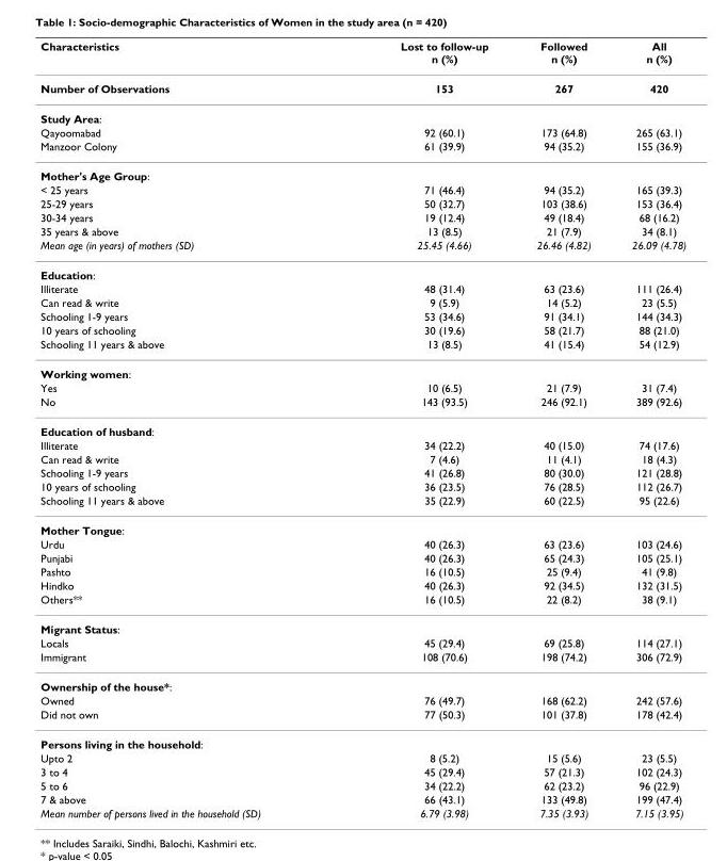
<table><thead><tr><td>Characteristics</td><td>Lost to follow-up n (%)</td><td>Followed n (%)</td><td>All n (%)</td></tr></thead><tbody><tr><td>Number of Observations</td><td>153</td><td>267</td><td>420</td></tr><tr><td colspan="4">Study Area:</td></tr><tr><td>Qayoomabad</td><td>92 (60.1)</td><td>173 (64.8)</td><td>265 (63.1)</td></tr><tr><td>Manzoor Colony</td><td>61 (39.9)</td><td>94 (35.2)</td><td>155 (36.9)</td></tr><tr><td colspan="4">Mother&#x27;s Age Group:</td></tr><tr><td>&lt; 25 years</td><td>71 (46.4)</td><td>94 (35.2)</td><td>165 (39.3)</td></tr><tr><td>25-29 years</td><td>50 (32.7)</td><td>103 (38.6)</td><td>153 (36.4)</td></tr><tr><td>30-34 years</td><td>19 (12.4)</td><td>49 (18.4)</td><td>68 (16.2)</td></tr><tr><td>35 years &amp; above</td><td>13 (8.5)</td><td>21 (7.9)</td><td>34 (8.1)</td></tr><tr><td>Mean age (in years) of mothers (SD)</td><td>25.45 (4.66)</td><td>26.46 (4.82)</td><td>26.09 (4.78)</td></tr><tr><td colspan="4">Education:</td></tr><tr><td>Illiterate</td><td>48 (31.4)</td><td>63 (23.6)</td><td>111 (26.4)</td></tr><tr><td>Can read &amp; write</td><td>9 (5.9)</td><td>14 (5.2)</td><td>23 (5.5)</td></tr><tr><td>Schooling 1-9 years</td><td>53 (34.6)</td><td>91 (34.1)</td><td>144 (34.3)</td></tr><tr><td>10 years of schooling</td><td>30 (19.6)</td><td>58 (21.7)</td><td>88 (21.0)</td></tr><tr><td>Schooling 11 years &amp; above</td><td>13 (8.5)</td><td>41 (15.4)</td><td>54 (12.9)</td></tr><tr><td colspan="4">Working women:</td></tr><tr><td>Yes</td><td>10 (6.5)</td><td>21 (7.9)</td><td>31 (7.4)</td></tr><tr><td>No</td><td>143 (93.5)</td><td>246 (92.1)</td><td>389 (92.6)</td></tr><tr><td colspan="4">Education of husband:</td></tr><tr><td>Illiterate</td><td>34 (22.2)</td><td>40 (15.0)</td><td>74 (17.6)</td></tr><tr><td>Can read &amp; write</td><td>7 (4.6)</td><td>11 (4.1)</td><td>18 (4.3)</td></tr><tr><td>Schooling 1-9 years</td><td>41 (26.8)</td><td>80 (30.0)</td><td>121 (28.8)</td></tr><tr><td>10 years of schooling</td><td>36 (23.5)</td><td>76 (28.5)</td><td>112 (26.7)</td></tr><tr><td>Schooling 11 years &amp; above</td><td>35 (22.9)</td><td>60 (22.5)</td><td>95 (22.6)</td></tr><tr><td colspan="4">Mother Tongue:</td></tr><tr><td>Urdu</td><td>40 (26.3)</td><td>63 (23.6)</td><td>103 (24.6)</td></tr><tr><td>Punjabi</td><td>40 (26.3)</td><td>65 (24.3)</td><td>105 (25.1)</td></tr><tr><td>Pashto</td><td>16 (10.5)</td><td>25 (9.4)</td><td>41 (9.8)</td></tr><tr><td>Hindko</td><td>40 (26.3)</td><td>92 (34.5)</td><td>132 (31.5)</td></tr><tr><td>Others**</td><td>16 (10.5)</td><td>22 (8.2)</td><td>38 (9.1)</td></tr><tr><td colspan="4">Migrant Status:</td></tr><tr><td>Locals</td><td>45 (29.4)</td><td>69 (25.8)</td><td>114 (27.1)</td></tr><tr><td>Immigrant</td><td>108 (70.6)</td><td>198 (74.2)</td><td>306 (72.9)</td></tr><tr><td colspan="4">Ownership of the house*:</td></tr><tr><td>Owned</td><td>76 (49.7)</td><td>168 (62.2)</td><td>242 (57.6)</td></tr><tr><td>Did not own</td><td>77 (50.3)</td><td>101 (37.8)</td><td>178 (42.4)</td></tr><tr><td colspan="4">Persons living in the household:</td></tr><tr><td>Upto 2</td><td>8 (5.2)</td><td>15 (5.6)</td><td>23 (5.5)</td></tr><tr><td>3 to 4</td><td>45 (29.4)</td><td>57 (21.3)</td><td>102 (24.3)</td></tr><tr><td>5 to 6</td><td>34 (22.2)</td><td>62 (23.2)</td><td>96 (22.9)</td></tr><tr><td>7 &amp; above</td><td>66 (43.1)</td><td>133 (49.8)</td><td>199 (47.4)</td></tr><tr><td>Mean number of persons lived in the household (SD)</td><td>6.79 (3.98)</td><td>7.35 (3.93)</td><td>7.15 (3.95)</td></tr></tbody></table>